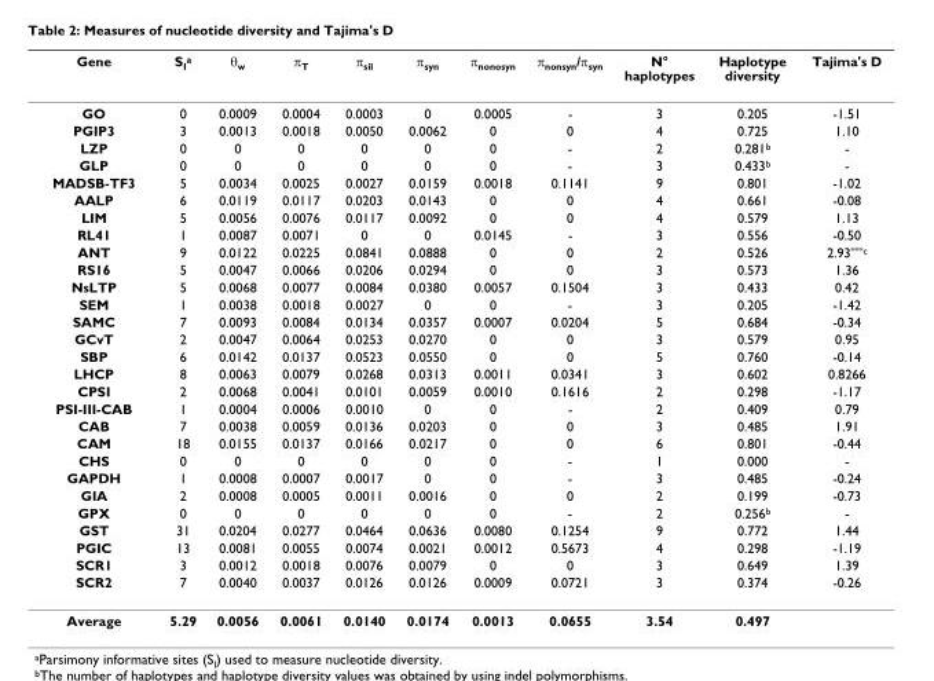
<table><thead><tr><td>Gene</td><td>S<sub>I</sub><sup>a</sup></td><td>θ<sub>w</sub></td><td>π<sub>T</sub></td><td>π<sub>sil</sub></td><td>π<sub>syn</sub></td><td>π<sub>nonosyn</sub></td><td>π<sub>nonsyn</sub>/π<sub>syn</sub></td><td>N° haplotypes</td><td>Haplotype diversity</td><td>Tajima&#x27;s D</td></tr></thead><tbody><tr><td>GO</td><td>0</td><td>0.0009</td><td>0.0004</td><td>0.0003</td><td>0</td><td>0.0005</td><td>-</td><td>3</td><td>0.205</td><td>-1.51</td></tr><tr><td>PGIP3</td><td>3</td><td>0.0013</td><td>0.0018</td><td>0.0050</td><td>0.0062</td><td>0</td><td>0</td><td>4</td><td>0.725</td><td>1.10</td></tr><tr><td>LZP</td><td>0</td><td>0</td><td>0</td><td>0</td><td>0</td><td>0</td><td>-</td><td>2</td><td>0.281<sup>b</sup></td><td>-</td></tr><tr><td>GLP</td><td>0</td><td>0</td><td>0</td><td>0</td><td>0</td><td>0</td><td>-</td><td>3</td><td>0.433<sup>b</sup></td><td>-</td></tr><tr><td>MADSB-TF3</td><td>5</td><td>0.0034</td><td>0.0025</td><td>0.0027</td><td>0.0159</td><td>0.0018</td><td>0.1141</td><td>9</td><td>0.801</td><td>-1.02</td></tr><tr><td>AALP</td><td>6</td><td>0.0119</td><td>0.0117</td><td>0.0203</td><td>0.0143</td><td>0</td><td>0</td><td>4</td><td>0.661</td><td>-0.08</td></tr><tr><td>LIM</td><td>5</td><td>0.0056</td><td>0.0076</td><td>0.0117</td><td>0.0092</td><td>0</td><td>0</td><td>4</td><td>0.579</td><td>1.13</td></tr><tr><td>RL41</td><td>1</td><td>0.0087</td><td>0.0071</td><td>0</td><td>0</td><td>0.0145</td><td>-</td><td>3</td><td>0.556</td><td>-0.50</td></tr><tr><td>ANT</td><td>9</td><td>0.0122</td><td>0.0225</td><td>0.0841</td><td>0.0888</td><td>0</td><td>0</td><td>2</td><td>0.526</td><td>2.93<sup>***c</sup></td></tr><tr><td>RS16</td><td>5</td><td>0.0047</td><td>0.0066</td><td>0.0206</td><td>0.0294</td><td>0</td><td>0</td><td>3</td><td>0.573</td><td>1.36</td></tr><tr><td>NsLTP</td><td>5</td><td>0.0068</td><td>0.0077</td><td>0.0084</td><td>0.0380</td><td>0.0057</td><td>0.1504</td><td>3</td><td>0.433</td><td>0.42</td></tr><tr><td>SEM</td><td>1</td><td>0.0038</td><td>0.0018</td><td>0.0027</td><td>0</td><td>0</td><td>-</td><td>3</td><td>0.205</td><td>-1.42</td></tr><tr><td>SAMC</td><td>7</td><td>0.0093</td><td>0.0084</td><td>0.0134</td><td>0.0357</td><td>0.0007</td><td>0.0204</td><td>5</td><td>0.684</td><td>-0.34</td></tr><tr><td>GCvT</td><td>2</td><td>0.0047</td><td>0.0064</td><td>0.0253</td><td>0.0270</td><td>0</td><td>0</td><td>3</td><td>0.579</td><td>0.95</td></tr><tr><td>SBP</td><td>6</td><td>0.0142</td><td>0.0137</td><td>0.0523</td><td>0.0550</td><td>0</td><td>0</td><td>5</td><td>0.760</td><td>-0.14</td></tr><tr><td>LHCP</td><td>8</td><td>0.0063</td><td>0.0079</td><td>0.0268</td><td>0.0313</td><td>0.0011</td><td>0.0341</td><td>3</td><td>0.602</td><td>0.8266</td></tr><tr><td>CPSI</td><td>2</td><td>0.0068</td><td>0.0041</td><td>0.0101</td><td>0.0059</td><td>0.0010</td><td>0.1616</td><td>2</td><td>0.298</td><td>-1.17</td></tr><tr><td>PSI-III-CAB</td><td>1</td><td>0.0004</td><td>0.0006</td><td>0.0010</td><td>0</td><td>0</td><td>-</td><td>2</td><td>0.409</td><td>0.79</td></tr><tr><td>CAB</td><td>7</td><td>0.0038</td><td>0.0059</td><td>0.0136</td><td>0.0203</td><td>0</td><td>0</td><td>3</td><td>0.485</td><td>1.91</td></tr><tr><td>CAM</td><td>18</td><td>0.0155</td><td>0.0137</td><td>0.0166</td><td>0.0217</td><td>0</td><td>0</td><td>6</td><td>0.801</td><td>-0.44</td></tr><tr><td>CHS</td><td>0</td><td>0</td><td>0</td><td>0</td><td>0</td><td>0</td><td>-</td><td>1</td><td>0.000</td><td>-</td></tr><tr><td>GAPDH</td><td>1</td><td>0.0008</td><td>0.0007</td><td>0.0017</td><td>0</td><td>0</td><td>-</td><td>3</td><td>0.485</td><td>-0.24</td></tr><tr><td>GIA</td><td>2</td><td>0.0008</td><td>0.0005</td><td>0.0011</td><td>0.0016</td><td>0</td><td>0</td><td>2</td><td>0.199</td><td>-0.73</td></tr><tr><td>GPX</td><td>0</td><td>0</td><td>0</td><td>0</td><td>0</td><td>0</td><td>-</td><td>2</td><td>0.256<sup>b</sup></td><td>-</td></tr><tr><td>GST</td><td>31</td><td>0.0204</td><td>0.0277</td><td>0.0464</td><td>0.0636</td><td>0.0080</td><td>0.1254</td><td>9</td><td>0.772</td><td>1.44</td></tr><tr><td>PGIC</td><td>13</td><td>0.0081</td><td>0.0055</td><td>0.0074</td><td>0.0021</td><td>0.0012</td><td>0.5673</td><td>4</td><td>0.298</td><td>-1.19</td></tr><tr><td>SCR1</td><td>3</td><td>0.0012</td><td>0.0018</td><td>0.0076</td><td>0.0079</td><td>0</td><td>0</td><td>3</td><td>0.649</td><td>1.39</td></tr><tr><td>SCR2</td><td>7</td><td>0.0040</td><td>0.0037</td><td>0.0126</td><td>0.0126</td><td>0.0009</td><td>0.0721</td><td>3</td><td>0.374</td><td>-0.26</td></tr><tr><td>Average</td><td>5.29</td><td>0.0056</td><td>0.0061</td><td>0.0140</td><td>0.0174</td><td>0.0013</td><td>0.0655</td><td>3.54</td><td>0.497</td><td></td></tr></tbody></table>